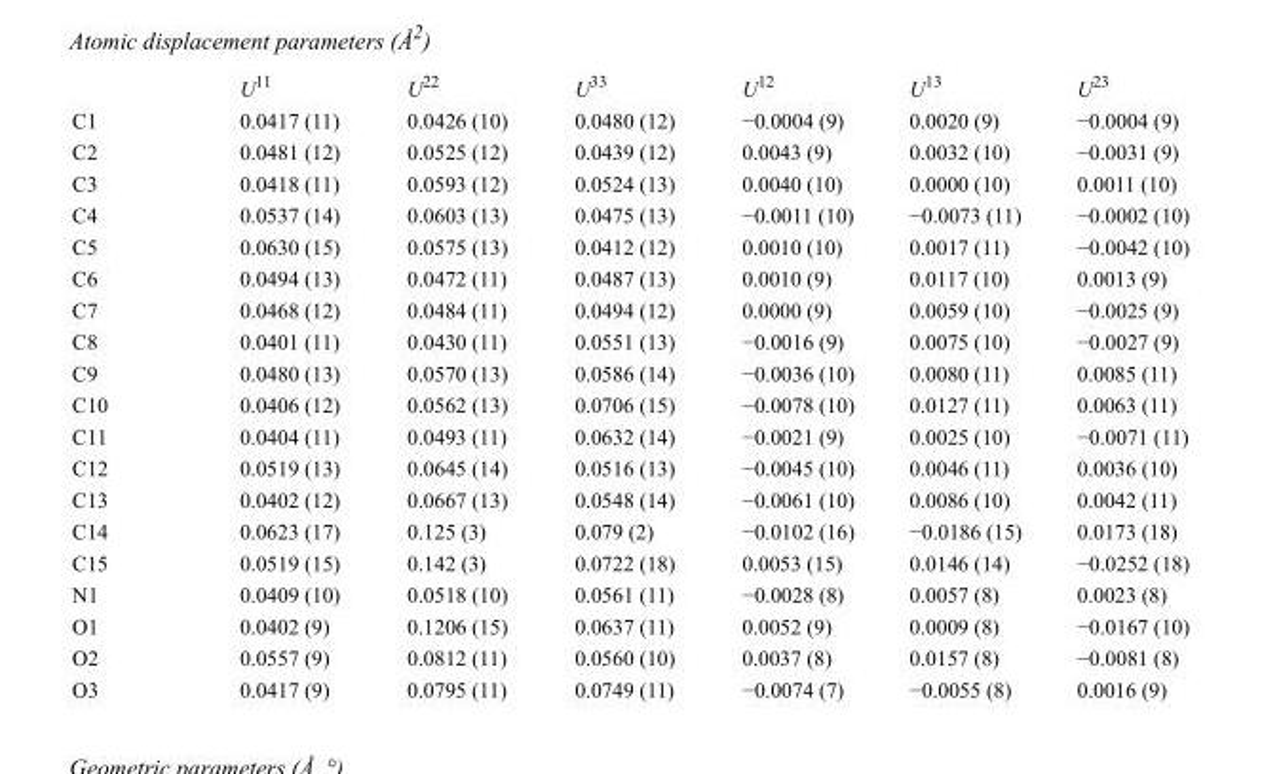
<table><thead><tr><td></td><td>U<sup>11</sup></td><td>U<sup>22</sup></td><td>U<sup>33</sup></td><td>U<sup>12</sup></td><td>U<sup>13</sup></td><td>U<sup>23</sup></td></tr></thead><tbody><tr><td>C1</td><td>0.0417 (11)</td><td>0.0426 (10)</td><td>0.0480 (12)</td><td>−0.0004 (9)</td><td>0.0020 (9)</td><td>−0.0004 (9)</td></tr><tr><td>C2</td><td>0.0481 (12)</td><td>0.0525 (12)</td><td>0.0439 (12)</td><td>0.0043 (9)</td><td>0.0032 (10)</td><td>−0.0031 (9)</td></tr><tr><td>C3</td><td>0.0418 (11)</td><td>0.0593 (12)</td><td>0.0524 (13)</td><td>0.0040 (10)</td><td>0.0000 (10)</td><td>0.0011 (10)</td></tr><tr><td>C4</td><td>0.0537 (14)</td><td>0.0603 (13)</td><td>0.0475 (13)</td><td>−0.0011 (10)</td><td>−0.0073 (11)</td><td>−0.0002 (10)</td></tr><tr><td>C5</td><td>0.0630 (15)</td><td>0.0575 (13)</td><td>0.0412 (12)</td><td>0.0010 (10)</td><td>0.0017 (11)</td><td>−0.0042 (10)</td></tr><tr><td>C6</td><td>0.0494 (13)</td><td>0.0472 (11)</td><td>0.0487 (13)</td><td>0.0010 (9)</td><td>0.0117 (10)</td><td>0.0013 (9)</td></tr><tr><td>C7</td><td>0.0468 (12)</td><td>0.0484 (11)</td><td>0.0494 (12)</td><td>0.0000 (9)</td><td>0.0059 (10)</td><td>−0.0025 (9)</td></tr><tr><td>C8</td><td>0.0401 (11)</td><td>0.0430 (11)</td><td>0.0551 (13)</td><td>−0.0016 (9)</td><td>0.0075 (10)</td><td>−0.0027 (9)</td></tr><tr><td>C9</td><td>0.0480 (13)</td><td>0.0570 (13)</td><td>0.0586 (14)</td><td>−0.0036 (10)</td><td>0.0080 (11)</td><td>0.0085 (11)</td></tr><tr><td>C10</td><td>0.0406 (12)</td><td>0.0562 (13)</td><td>0.0706 (15)</td><td>−0.0078 (10)</td><td>0.0127 (11)</td><td>0.0063 (11)</td></tr><tr><td>C11</td><td>0.0404 (11)</td><td>0.0493 (11)</td><td>0.0632 (14)</td><td>−0.0021 (9)</td><td>0.0025 (10)</td><td>−0.0071 (11)</td></tr><tr><td>C12</td><td>0.0519 (13)</td><td>0.0645 (14)</td><td>0.0516 (13)</td><td>−0.0045 (10)</td><td>0.0046 (11)</td><td>0.0036 (10)</td></tr><tr><td>C13</td><td>0.0402 (12)</td><td>0.0667 (13)</td><td>0.0548 (14)</td><td>−0.0061 (10)</td><td>0.0086 (10)</td><td>0.0042 (11)</td></tr><tr><td>C14</td><td>0.0623 (17)</td><td>0.125 (3)</td><td>0.079 (2)</td><td>−0.0102 (16)</td><td>−0.0186 (15)</td><td>0.0173 (18)</td></tr><tr><td>C15</td><td>0.0519 (15)</td><td>0.142 (3)</td><td>0.0722 (18)</td><td>0.0053 (15)</td><td>0.0146 (14)</td><td>−0.0252 (18)</td></tr><tr><td>N1</td><td>0.0409 (10)</td><td>0.0518 (10)</td><td>0.0561 (11)</td><td>−0.0028 (8)</td><td>0.0057 (8)</td><td>0.0023 (8)</td></tr><tr><td>O1</td><td>0.0402 (9)</td><td>0.1206 (15)</td><td>0.0637 (11)</td><td>0.0052 (9)</td><td>0.0009 (8)</td><td>−0.0167 (10)</td></tr><tr><td>O2</td><td>0.0557 (9)</td><td>0.0812 (11)</td><td>0.0560 (10)</td><td>0.0037 (8)</td><td>0.0157 (8)</td><td>−0.0081 (8)</td></tr><tr><td>O3</td><td>0.0417 (9)</td><td>0.0795 (11)</td><td>0.0749 (11)</td><td>−0.0074 (7)</td><td>−0.0055 (8)</td><td>0.0016 (9)</td></tr></tbody></table>